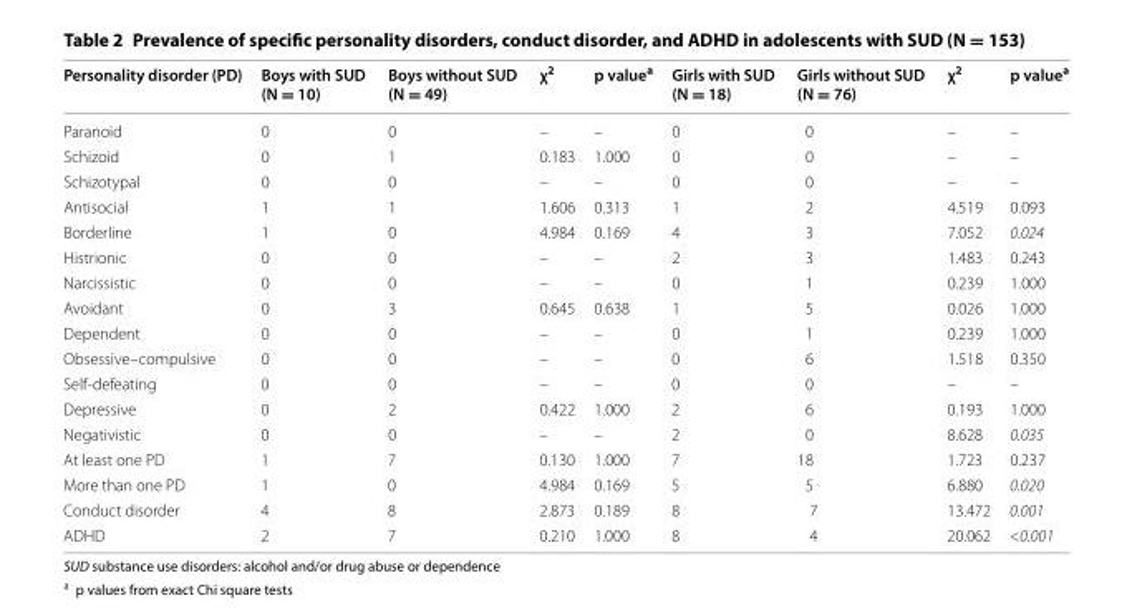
<table><thead><tr><td>Personality disorder (PD)</td><td>Boys with SUD (N = 10)</td><td>Boys without SUD (N = 49)</td><td>χ<sup>2</sup></td><td>p value<sup>a</sup></td><td>Girls with SUD (N = 18)</td><td>Girls without SUD (N = 76)</td><td>χ<sup>2</sup></td><td>p value<sup>a</sup></td></tr></thead><tbody><tr><td>Paranoid</td><td>0</td><td>0</td><td>–</td><td>–</td><td>0</td><td>0</td><td>–</td><td>–</td></tr><tr><td>Schizoid</td><td>0</td><td>1</td><td>0.183</td><td>1.000</td><td>0</td><td>0</td><td>–</td><td>–</td></tr><tr><td>Schizotypal</td><td>0</td><td>0</td><td>–</td><td>–</td><td>0</td><td>0</td><td>–</td><td>–</td></tr><tr><td>Antisocial</td><td>1</td><td>1</td><td>1.606</td><td>0.313</td><td>1</td><td>2</td><td>4.519</td><td>0.093</td></tr><tr><td>Borderline</td><td>1</td><td>0</td><td>4.984</td><td>0.169</td><td>4</td><td>3</td><td>7.052</td><td>0.024</td></tr><tr><td>Histrionic</td><td>0</td><td>0</td><td>–</td><td>–</td><td>2</td><td>3</td><td>1.483</td><td>0.243</td></tr><tr><td>Narcissistic</td><td>0</td><td>0</td><td>–</td><td>–</td><td>0</td><td>1</td><td>0.239</td><td>1.000</td></tr><tr><td>Avoidant</td><td>0</td><td>3</td><td>0.645</td><td>0.638</td><td>1</td><td>5</td><td>0.026</td><td>1.000</td></tr><tr><td>Dependent</td><td>0</td><td>0</td><td>–</td><td>–</td><td>0</td><td>1</td><td>0.239</td><td>1.000</td></tr><tr><td>Obsessive–compulsive</td><td>0</td><td>0</td><td>–</td><td>–</td><td>0</td><td>6</td><td>1.518</td><td>0.350</td></tr><tr><td>Self‑defeating</td><td>0</td><td>0</td><td>–</td><td>–</td><td>0</td><td>0</td><td>–</td><td>–</td></tr><tr><td>Depressive</td><td>0</td><td>2</td><td>0.422</td><td>1.000</td><td>2</td><td>6</td><td>0.193</td><td>1.000</td></tr><tr><td>Negativistic</td><td>0</td><td>0</td><td>–</td><td>–</td><td>2</td><td>0</td><td>8.628</td><td>0.035</td></tr><tr><td>At least one PD</td><td>1</td><td>7</td><td>0.130</td><td>1.000</td><td>7</td><td>18</td><td>1.723</td><td>0.237</td></tr><tr><td>More than one PD</td><td>1</td><td>0</td><td>4.984</td><td>0.169</td><td>5</td><td>5</td><td>6.880</td><td>0.020</td></tr><tr><td>Conduct disorder</td><td>4</td><td>8</td><td>2.873</td><td>0.189</td><td>8</td><td>7</td><td>13.472</td><td>0.001</td></tr><tr><td>ADHD</td><td>2</td><td>7</td><td>0.210</td><td>1.000</td><td>8</td><td>4</td><td>20.062</td><td>&lt;0.001</td></tr></tbody></table>